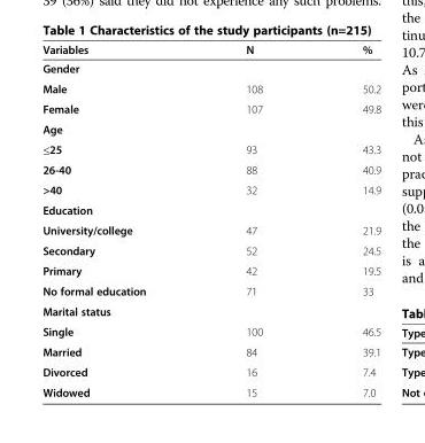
<table><thead><tr><td>Variables</td><td>N</td><td>%</td></tr></thead><tbody><tr><td colspan="3">Gender</td></tr><tr><td>Male</td><td>108</td><td>50.2</td></tr><tr><td>Female</td><td>107</td><td>49.8</td></tr><tr><td colspan="3">Age</td></tr><tr><td>≤25</td><td>93</td><td>43.3</td></tr><tr><td>26-40</td><td>88</td><td>40.9</td></tr><tr><td>&gt;40</td><td>32</td><td>14.9</td></tr><tr><td colspan="3">Education</td></tr><tr><td>University/college</td><td>47</td><td>21.9</td></tr><tr><td>Secondary</td><td>52</td><td>24.5</td></tr><tr><td>Primary</td><td>42</td><td>19.5</td></tr><tr><td>No formal education</td><td>71</td><td>33</td></tr><tr><td colspan="3">Marital status</td></tr><tr><td>Single</td><td>100</td><td>46.5</td></tr><tr><td>Married</td><td>84</td><td>39.1</td></tr><tr><td>Divorced</td><td>16</td><td>7.4</td></tr><tr><td>Widowed</td><td>15</td><td>7.0</td></tr></tbody></table>